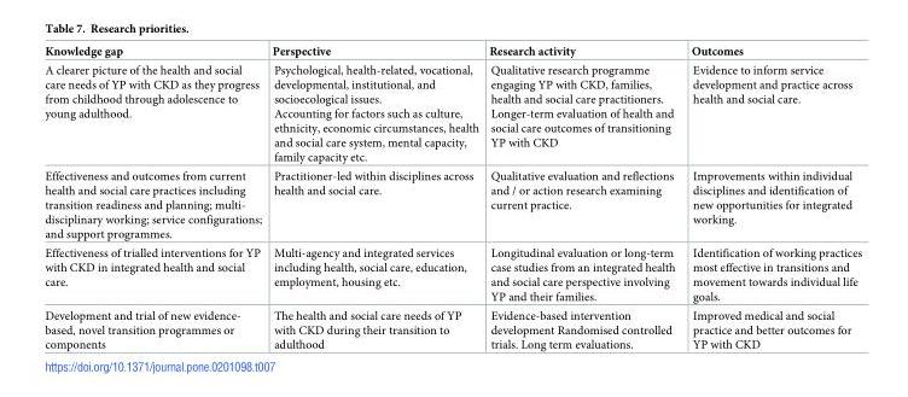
<table><thead><tr><td>Knowledge gap</td><td>Perspective</td><td>Research activity</td><td>Outcomes</td></tr></thead><tbody><tr><td>A clearer picture of the health and social care needs of YP with CKD as they progress from childhood through adolescence to young adulthood.</td><td>Psychological, health-related, vocational, developmental, institutional, and socioecological issues. Accounting for factors such as culture, ethnicity, economic circumstances, health and social care system, mental capacity, family capacity etc.</td><td>Qualitative research programme engaging YP with CKD, families, health and social care practitioners. Longer-term evaluation of health and social care outcomes of transitioning YP with CKD</td><td>Evidence to inform service development and practice across health and social care.</td></tr><tr><td>Effectiveness and outcomes from current health and social care practices including transition readiness and planning; multi- disciplinary working; service configurations; and support programmes.</td><td>Practitioner-led within disciplines across health and social care.</td><td>Qualitative evaluation and reflections and / or action research examining current practice.</td><td>Improvements within individual disciplines and identification of new opportunities for integrated working.</td></tr><tr><td>Effectiveness of trialled interventions for YP with CKD in integrated health and social care.</td><td>Multi-agency and integrated services including health, social care, education, employment, housing etc.</td><td>Longitudinal evaluation or long-term case studies from an integrated health and social care perspective involving YP and their families.</td><td>Identification of working practices most effective in transitions and movement towards individual life goals.</td></tr><tr><td>Development and trial of new evidence- based, novel transition programmes or components</td><td>The health and social care needs of YP with CKD during their transition to adulthood</td><td>Evidence-based intervention development Randomised controlled trials. Long term evaluations.</td><td>Improved medical and social practice and better outcomes for YP with CKD</td></tr></tbody></table>